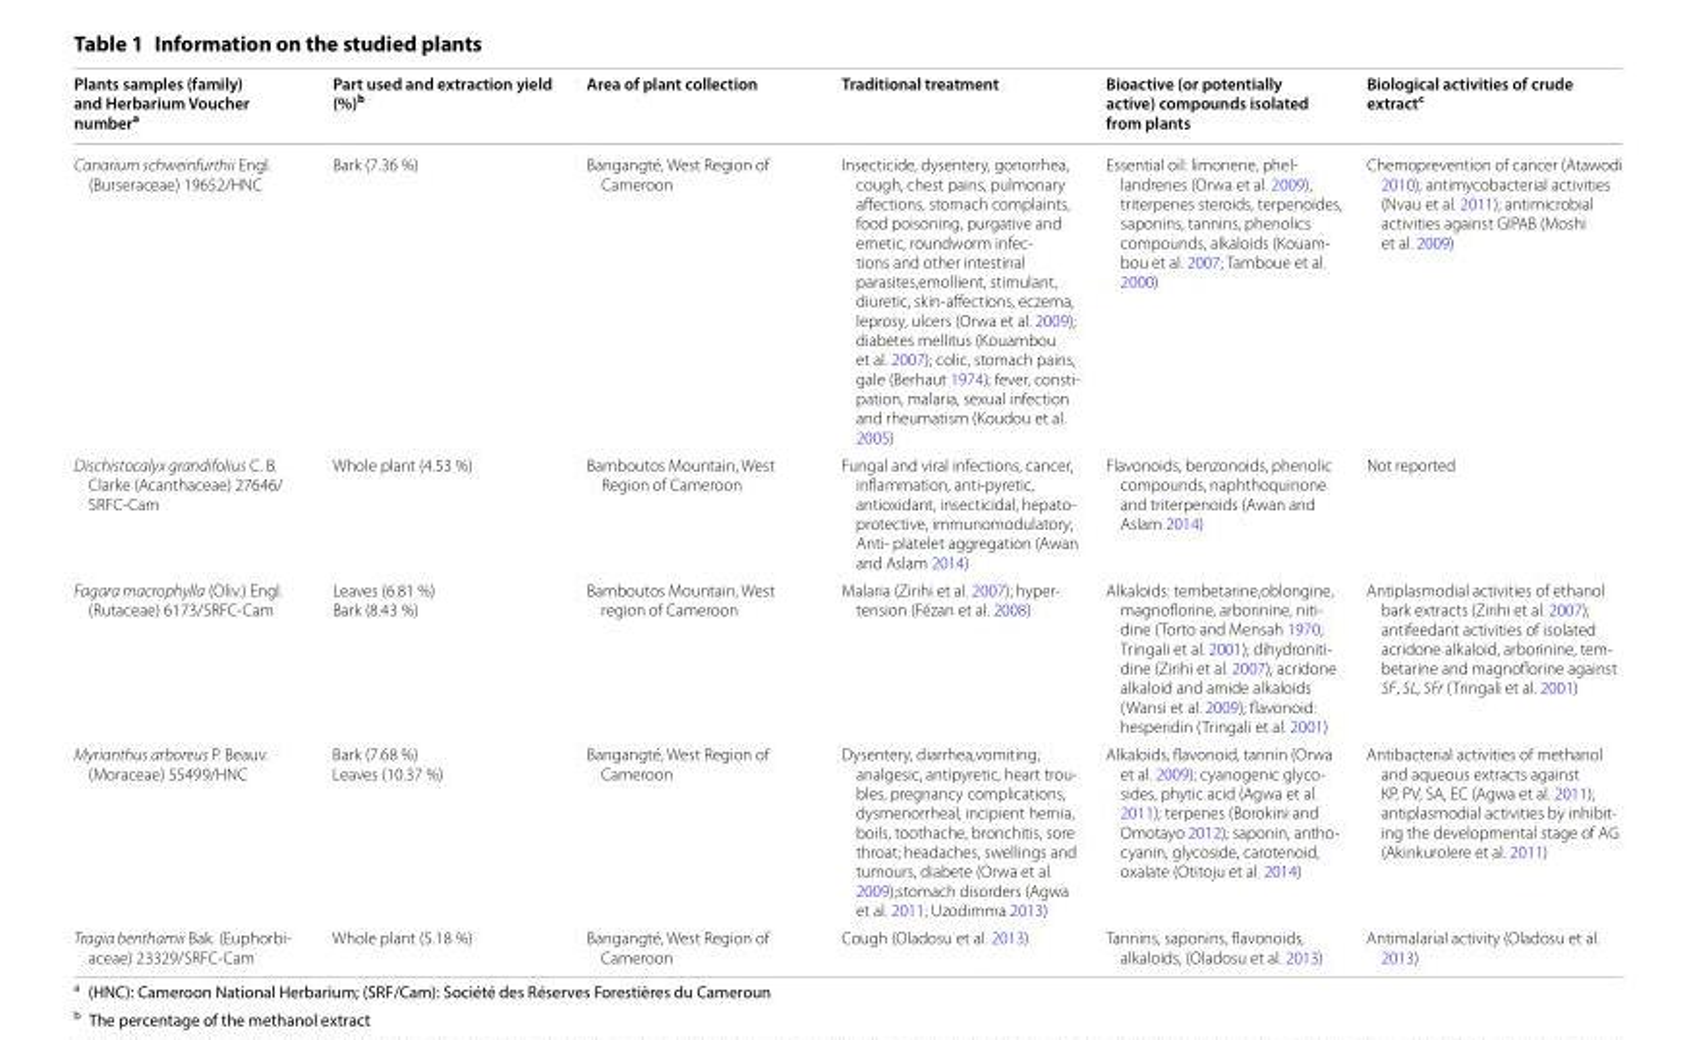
<table><thead><tr><td>Plants samples (family) and Herbarium Voucher number<sup>a</sup></td><td>Part used and extraction yield (%)<sup>b</sup></td><td>Area of plant collection</td><td>Traditional treatment</td><td>Bioactive (or potentially active) compounds isolated from plants</td><td>Biological activities of crude extract<sup>c</sup></td></tr></thead><tbody><tr><td>Canarium schweinfurthii Engl. (Burseraceae) 19652/HNC</td><td>Bark (7.36 %)</td><td>Bangangté, West Region of Cameroon</td><td>Insecticide, dysentery, gonorrhea, cough, chest pains, pulmonary affections, stomach complaints, food poisoning, purgative and emetic, roundworm infec- tions and other intestinal parasites,emollient, stimulant, diuretic, skin-affections, eczema, leprosy, ulcers (Orwa et al. 2009); diabetes mellitus (Kouambou et al. 2007); colic, stomach pains, gale (Berhaut 1974); fever, consti- pation, malaria, sexual infection and rheumatism (Koudou et al. 2005)</td><td>Essential oil: limonene, phel- landrenes (Orwa et al. 2009), triterpenes steroids, terpenoïdes, saponins, tannins, phenolics compounds, alkaloids (Kouam- bou et al. 2007; Tamboue et al. 2000)</td><td>Chemoprevention of cancer (Atawodi 2010); antimycobacterial activities (Nvau et al. 2011); antimicrobial activities against GIPAB (Moshi et al. 2009)</td></tr><tr><td>Dischistocalyx grandifolius C. B. Clarke (Acanthaceae) 27646/ SRFC-Cam</td><td>Whole plant (4.53 %)</td><td>Bamboutos Mountain, West Region of Cameroon</td><td>Fungal and viral infections, cancer, inflammation, anti-pyretic, antioxidant, insecticidal, hepato- protective, immunomodulatory, Anti- platelet aggregation (Awan and Aslam 2014)</td><td>Flavonoids, benzonoids, phenolic compounds, naphthoquinone and triterpenoids (Awan and Aslam 2014)</td><td>Not reported</td></tr><tr><td>Fagara macrophylla (Oliv.) Engl. (Rutaceae) 6173/SRFC-Cam</td><td>Leaves (6.81 %) Bark (8.43 %)</td><td>Bamboutos Mountain, West region of Cameroon</td><td>Malaria (Zirihi et al. 2007); hyper- tension (Fézan et al. 2008)</td><td>Alkaloids: tembetarine,oblongine, magnoflorine, arborinine, niti- dine (Torto and Mensah 1970; Tringali et al. 2001); dihydroniti- dine (Zirihi et al. 2007); acridone alkaloid and amide alkaloids (Wansi et al. 2009); flavonoid: hesperidin (Tringali et al. 2001)</td><td>Antiplasmodial activities of ethanol bark extracts (Zirihi et al. 2007); antifeedant activities of isolated acridone alkaloid, arborinine, tem- betarine and magnoflorine against SF, SL, SFr (Tringali et al. 2001)</td></tr><tr><td>Myrianthus arboreus P. Beauv. (Moraceae) 55499/HNC</td><td>Bark (7.68 %) Leaves (10.37 %)</td><td>Bangangté, West Region of Cameroon</td><td>Dysentery, diarrhea,vomiting; analgesic, antipyretic, heart trou- bles, pregnancy complications, dysmenorrheal, incipient hernia, boils, toothache, bronchitis, sore throat; headaches, swellings and tumours, diabete (Orwa et al. 2009);stomach disorders (Agwa et al. 2011; Uzodimma 2013)</td><td>Alkaloids, flavonoid, tannin (Orwa et al. 2009); cyanogenic glyco- sides, phytic acid (Agwa et al. 2011); terpenes (Borokini and Omotayo 2012); saponin, antho- cyanin, glycoside, carotenoid, oxalate (Otitoju et al. 2014)</td><td>Antibacterial activities of methanol and aqueous extracts against KP, PV, SA, EC (Agwa et al. 2011); antiplasmodial activities by inhibit- ing the developmental stage of AG (Akinkurolere et al. 2011)</td></tr><tr><td>Tragia benthamii Bak. (Euphorbi- aceae) 23329/SRFC-Cam</td><td>Whole plant (5.18 %)</td><td>Bangangté, West Region of Cameroon</td><td>Cough (Oladosu et al. 2013)</td><td>Tannins, saponins, flavonoids, alkaloids, (Oladosu et al. 2013)</td><td>Antimalarial activity (Oladosu et al. 2013)</td></tr></tbody></table>